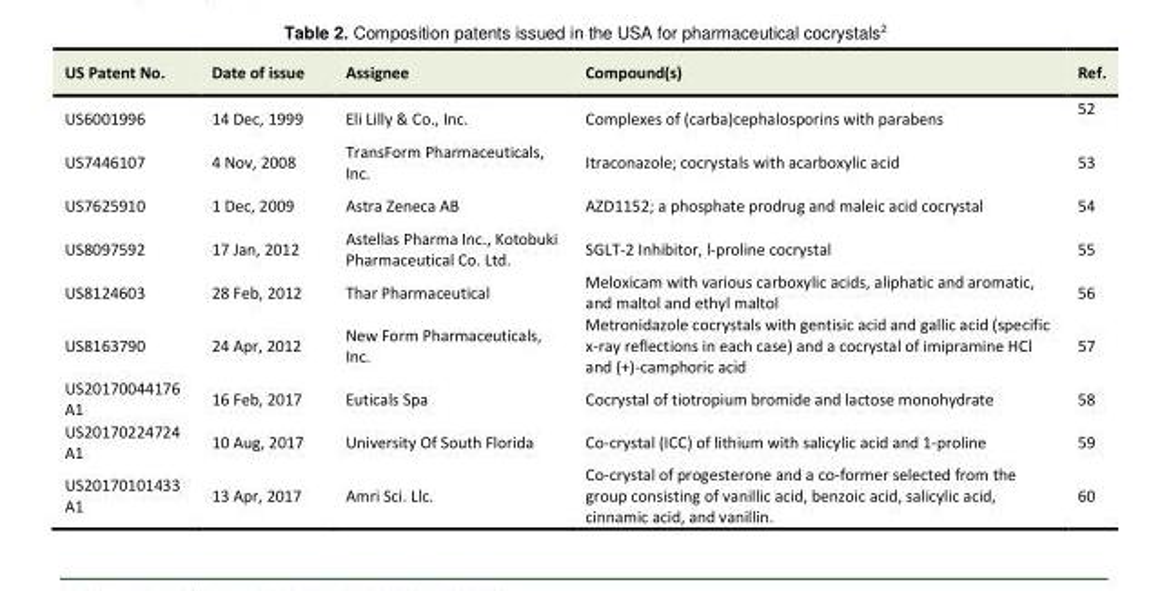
<table><tbody><tr><td>US Patent No.</td><td>Date of issue</td><td>Assignee</td><td>Compound(s)</td><td>Ref.</td></tr><tr><td>US6001996</td><td>14 Dec, 1999</td><td>Eli Lilly &amp; Co., Inc.</td><td>Complexes of (carba)cephalosporins with parabens</td><td>52</td></tr><tr><td>US7446107</td><td>4 Nov, 2008</td><td>TransForm Pharmaceuticals, Inc.</td><td>Itraconazole; cocrystals with acarboxylic acid</td><td>53</td></tr><tr><td>US7625910</td><td>1 Dec, 2009</td><td>Astra Zeneca AB</td><td>AZD1152; a phosphate prodrug and maleic acid cocrystal</td><td>54</td></tr><tr><td>US8097592</td><td>17 Jan, 2012</td><td>Astellas Pharma Inc., Kotobuki Pharmaceutical Co. Ltd.</td><td>SGLT-2 Inhibitor, l-proline cocrystal</td><td>55</td></tr><tr><td>US8124603</td><td>28 Feb, 2012</td><td>Thar Pharmaceutical</td><td>Meloxicam with various carboxylic acids, aliphatic and aromatic, and maltol and ethyl maltol</td><td>56</td></tr><tr><td>US8163790</td><td>24 Apr, 2012</td><td>New Form Pharmaceuticals, Inc.</td><td>Metronidazole cocrystals with gentisic acid and gallic acid (specific x-ray reflections in each case) and a cocrystal of imipramine HCl and (+)-camphoric acid</td><td>57</td></tr><tr><td>US20170044176 A1</td><td>16 Feb, 2017</td><td>Euticals Spa</td><td>Cocrystal of tiotropium bromide and lactose monohydrate</td><td>58</td></tr><tr><td>US20170224724 A1</td><td>10 Aug, 2017</td><td>University Of South Florida</td><td>Co-crystal (ICC) of lithium with salicylic acid and 1-proline</td><td>59</td></tr><tr><td>US20170101433 A1</td><td>13 Apr, 2017</td><td>Amri Sci. Llc.</td><td>Co-crystal of progesterone and a co-former selected from the group consisting of vanillic acid, benzoic acid, salicylic acid, cinnamic acid, and vanillin.</td><td>60</td></tr></tbody></table>